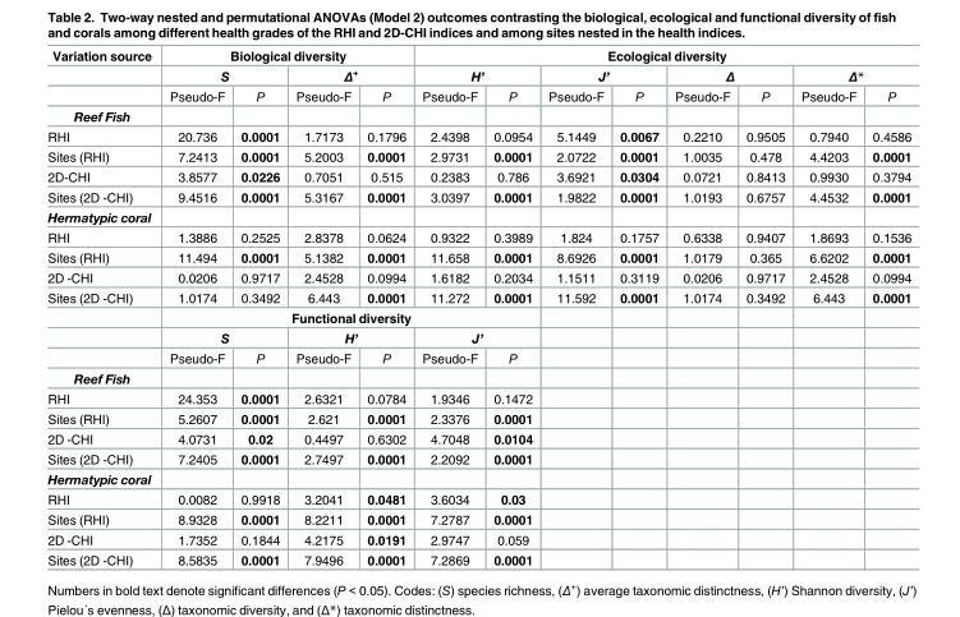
<table><tbody><tr><td rowspan="3">Variation source</td><td colspan="4">Biological diversity</td><td colspan="8">Ecological diversity</td></tr><tr><td colspan="2">S</td><td colspan="2">Δ<sup>+</sup></td><td colspan="2">H’</td><td colspan="2">J’</td><td colspan="2">Δ</td><td colspan="2">Δ*</td></tr><tr><td>Pseudo-F</td><td>P</td><td>Pseudo-F</td><td>P</td><td>Pseudo-F</td><td>P</td><td>Pseudo-F</td><td>P</td><td>Pseudo-F</td><td>P</td><td>Pseudo-F</td><td>P</td></tr><tr><td colspan="13">Reef Fish</td></tr><tr><td>RHI</td><td>20.736</td><td>0.0001</td><td>1.7173</td><td>0.1796</td><td>2.4398</td><td>0.0954</td><td>5.1449</td><td>0.0067</td><td>0.2210</td><td>0.9505</td><td>0.7940</td><td>0.4586</td></tr><tr><td>Sites (RHI)</td><td>7.2413</td><td>0.0001</td><td>5.2003</td><td>0.0001</td><td>2.9731</td><td>0.0001</td><td>2.0722</td><td>0.0001</td><td>1.0035</td><td>0.478</td><td>4.4203</td><td>0.0001</td></tr><tr><td>2D-CHI</td><td>3.8577</td><td>0.0226</td><td>0.7051</td><td>0.515</td><td>0.2383</td><td>0.786</td><td>3.6921</td><td>0.0304</td><td>0.0721</td><td>0.8413</td><td>0.9930</td><td>0.3794</td></tr><tr><td>Sites (2D -CHI)</td><td>9.4516</td><td>0.0001</td><td>5.3167</td><td>0.0001</td><td>3.0397</td><td>0.0001</td><td>1.9822</td><td>0.0001</td><td>1.0193</td><td>0.6757</td><td>4.4532</td><td>0.0001</td></tr><tr><td colspan="13">Hermatypic coral</td></tr><tr><td>RHI</td><td>1.3886</td><td>0.2525</td><td>2.8378</td><td>0.0624</td><td>0.9322</td><td>0.3989</td><td>1.824</td><td>0.1757</td><td>0.6338</td><td>0.9407</td><td>1.8693</td><td>0.1536</td></tr><tr><td>Sites (RHI)</td><td>11.494</td><td>0.0001</td><td>5.1382</td><td>0.0001</td><td>11.658</td><td>0.0001</td><td>8.6926</td><td>0.0001</td><td>1.0179</td><td>0.365</td><td>6.6202</td><td>0.0001</td></tr><tr><td>2D -CHI</td><td>0.0206</td><td>0.9717</td><td>2.4528</td><td>0.0994</td><td>1.6182</td><td>0.2034</td><td>1.1511</td><td>0.3119</td><td>0.0206</td><td>0.9717</td><td>2.4528</td><td>0.0994</td></tr><tr><td rowspan="4">Sites (2D -CHI)</td><td>1.0174</td><td>0.3492</td><td>6.443</td><td>0.0001</td><td>11.272</td><td>0.0001</td><td>11.592</td><td>0.0001</td><td>1.0174</td><td>0.3492</td><td>6.443</td><td>0.0001</td></tr><tr><td colspan="6">Functional diversity</td><td></td><td></td><td></td><td></td><td></td><td></td></tr><tr><td colspan="2">S</td><td colspan="2">H’</td><td colspan="2">J’</td><td></td><td></td><td></td><td></td><td></td><td></td></tr><tr><td>Pseudo-F</td><td>P</td><td>Pseudo-F</td><td>P</td><td>Pseudo-F</td><td>P</td><td></td><td></td><td></td><td></td><td></td><td></td></tr><tr><td colspan="13">Reef Fish</td></tr><tr><td>RHI</td><td>24.353</td><td>0.0001</td><td>2.6321</td><td>0.0784</td><td>1.9346</td><td>0.1472</td><td></td><td></td><td></td><td></td><td></td><td></td></tr><tr><td>Sites (RHI)</td><td>5.2607</td><td>0.0001</td><td>2.621</td><td>0.0001</td><td>2.3376</td><td>0.0001</td><td></td><td></td><td></td><td></td><td></td><td></td></tr><tr><td>2D -CHI</td><td>4.0731</td><td>0.02</td><td>0.4497</td><td>0.6302</td><td>4.7048</td><td>0.0104</td><td></td><td></td><td></td><td></td><td></td><td></td></tr><tr><td>Sites (2D -CHI)</td><td>7.2405</td><td>0.0001</td><td>2.7497</td><td>0.0001</td><td>2.2092</td><td>0.0001</td><td></td><td></td><td></td><td></td><td></td><td></td></tr><tr><td colspan="13">Hermatypic coral</td></tr><tr><td>RHI</td><td>0.0082</td><td>0.9918</td><td>3.2041</td><td>0.0481</td><td>3.6034</td><td>0.03</td><td></td><td></td><td></td><td></td><td></td><td></td></tr><tr><td>Sites (RHI)</td><td>8.9328</td><td>0.0001</td><td>8.2211</td><td>0.0001</td><td>7.2787</td><td>0.0001</td><td></td><td></td><td></td><td></td><td></td><td></td></tr><tr><td>2D -CHI</td><td>1.7352</td><td>0.1844</td><td>4.2175</td><td>0.0191</td><td>2.9747</td><td>0.059</td><td></td><td></td><td></td><td></td><td></td><td></td></tr><tr><td>Sites (2D -CHI)</td><td>8.5835</td><td>0.0001</td><td>7.9496</td><td>0.0001</td><td>7.2869</td><td>0.0001</td><td></td><td></td><td></td><td></td><td></td><td></td></tr></tbody></table>